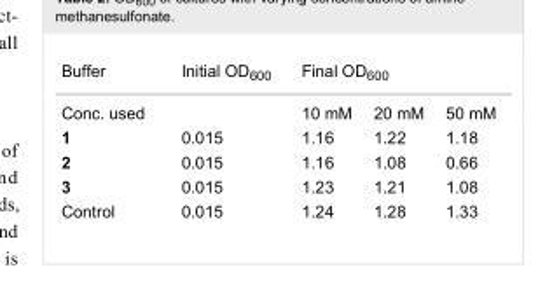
<table><tbody><tr><td>Buffer</td><td>Initial OD<sub>600</sub></td><td colspan="3">Final OD<sub>600</sub></td></tr><tr><td colspan="2">Conc. used</td><td>10 mM</td><td>20 mM</td><td>50 mM</td></tr><tr><td>1</td><td>0.015</td><td>1.16</td><td>1.22</td><td>1.18</td></tr><tr><td>2</td><td>0.015</td><td>1.16</td><td>1.08</td><td>0.66</td></tr><tr><td>3</td><td>0.015</td><td>1.23</td><td>1.21</td><td>1.08</td></tr><tr><td>Control</td><td>0.015</td><td>1.24</td><td>1.28</td><td>1.33</td></tr></tbody></table>